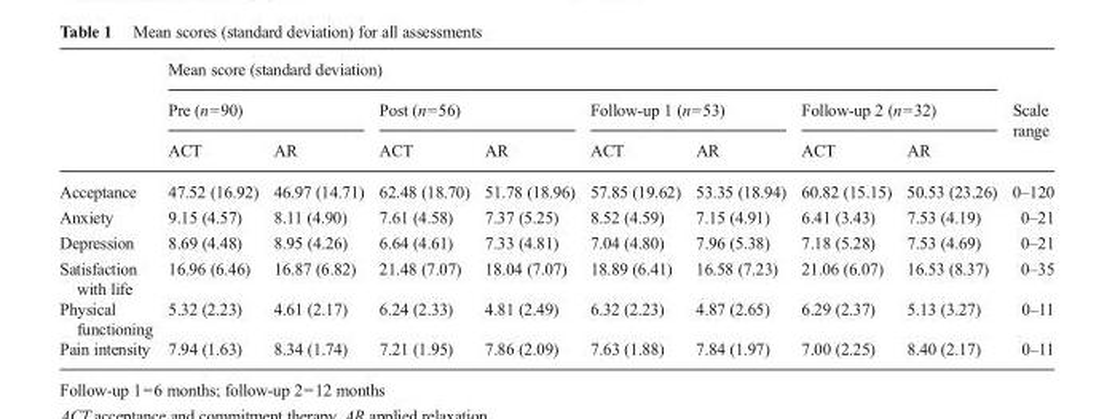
<table><thead><tr><td rowspan="3"></td><td colspan="8">Mean score (standard deviation)</td><td rowspan="3">Scale range</td></tr><tr><td colspan="2">Pre (n=90)</td><td colspan="2">Post (n=56)</td><td colspan="2">Follow-up 1 (n=53)</td><td colspan="2">Follow-up 2 (n=32)</td></tr><tr><td>ACT</td><td>AR</td><td>ACT</td><td>AR</td><td>ACT</td><td>AR</td><td>ACT</td><td>AR</td></tr></thead><tbody><tr><td>Acceptance</td><td>47.52 (16.92)</td><td>46.97 (14.71)</td><td>62.48 (18.70)</td><td>51.78 (18.96)</td><td>57.85 (19.62)</td><td>53.35 (18.94)</td><td>60.82 (15.15)</td><td>50.53 (23.26)</td><td>0–120</td></tr><tr><td>Anxiety</td><td>9.15 (4.57)</td><td>8.11 (4.90)</td><td>7.61 (4.58)</td><td>7.37 (5.25)</td><td>8.52 (4.59)</td><td>7.15 (4.91)</td><td>6.41 (3.43)</td><td>7.53 (4.19)</td><td>0–21</td></tr><tr><td>Depression</td><td>8.69 (4.48)</td><td>8.95 (4.26)</td><td>6.64 (4.61)</td><td>7.33 (4.81)</td><td>7.04 (4.80)</td><td>7.96 (5.38)</td><td>7.18 (5.28)</td><td>7.53 (4.69)</td><td>0–21</td></tr><tr><td>Satisfaction with life</td><td>16.96 (6.46)</td><td>16.87 (6.82)</td><td>21.48 (7.07)</td><td>18.04 (7.07)</td><td>18.89 (6.41)</td><td>16.58 (7.23)</td><td>21.06 (6.07)</td><td>16.53 (8.37)</td><td>0–35</td></tr><tr><td>Physical functioning</td><td>5.32 (2.23)</td><td>4.61 (2.17)</td><td>6.24 (2.33)</td><td>4.81 (2.49)</td><td>6.32 (2.23)</td><td>4.87 (2.65)</td><td>6.29 (2.37)</td><td>5.13 (3.27)</td><td>0–11</td></tr><tr><td>Pain intensity</td><td>7.94 (1.63)</td><td>8.34 (1.74)</td><td>7.21 (1.95)</td><td>7.86 (2.09)</td><td>7.63 (1.88)</td><td>7.84 (1.97)</td><td>7.00 (2.25)</td><td>8.40 (2.17)</td><td>0–11</td></tr></tbody></table>